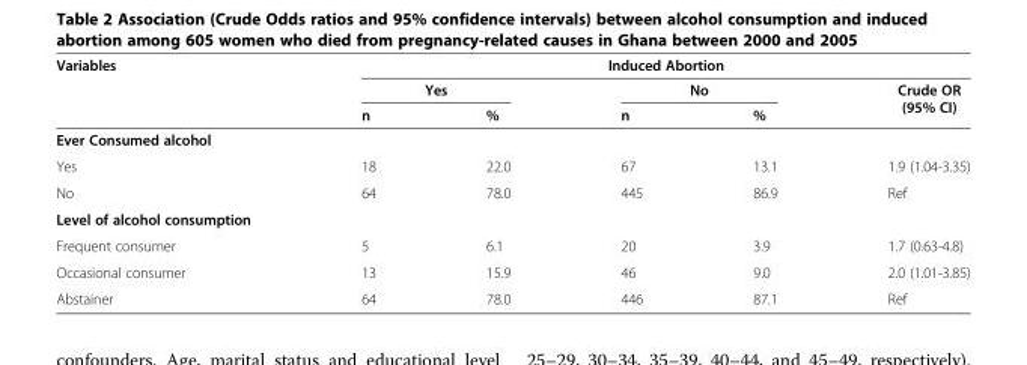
<table><thead><tr><td rowspan="3">Variables</td><td colspan="5">Induced Abortion</td></tr><tr><td colspan="2">Yes</td><td colspan="2">No</td><td rowspan="2">Crude OR (95% CI)</td></tr><tr><td>n</td><td>%</td><td>n</td><td>%</td></tr></thead><tbody><tr><td colspan="6">Ever Consumed alcohol</td></tr><tr><td>Yes</td><td>18</td><td>22.0</td><td>67</td><td>13.1</td><td>1.9 (1.04-3.35)</td></tr><tr><td>No</td><td>64</td><td>78.0</td><td>445</td><td>86.9</td><td>Ref</td></tr><tr><td colspan="6">Level of alcohol consumption</td></tr><tr><td>Frequent consumer</td><td>5</td><td>6.1</td><td>20</td><td>3.9</td><td>1.7 (0.63-4.8)</td></tr><tr><td>Occasional consumer</td><td>13</td><td>15.9</td><td>46</td><td>9.0</td><td>2.0 (1.01-3.85)</td></tr><tr><td>Abstainer</td><td>64</td><td>78.0</td><td>446</td><td>87.1</td><td>Ref</td></tr></tbody></table>